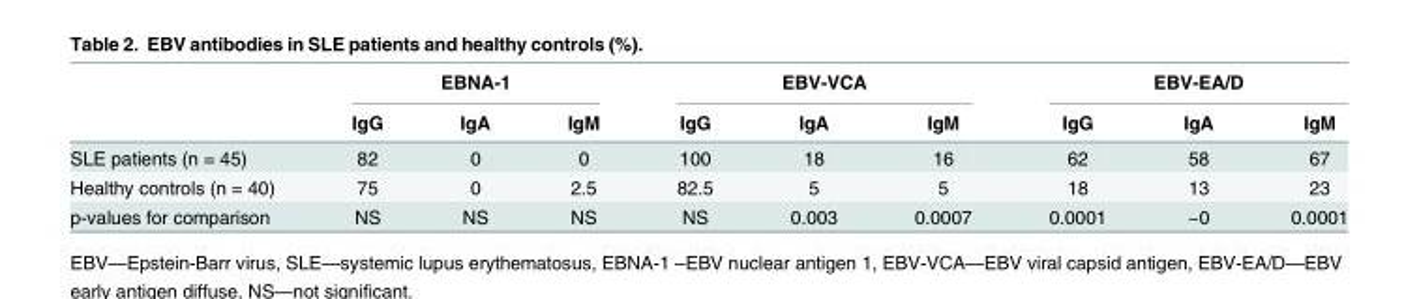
<table><thead><tr><td rowspan="2"></td><td colspan="3">EBNA-1</td><td colspan="3">EBV-VCA</td><td colspan="3">EBV-EA/D</td></tr><tr><td>IgG</td><td>IgA</td><td>IgM</td><td>IgG</td><td>IgA</td><td>IgM</td><td>IgG</td><td>IgA</td><td>IgM</td></tr></thead><tbody><tr><td>SLE patients (n = 45)</td><td>82</td><td>0</td><td>0</td><td>100</td><td>18</td><td>16</td><td>62</td><td>58</td><td>67</td></tr><tr><td>Healthy controls (n = 40)</td><td>75</td><td>0</td><td>2.5</td><td>82.5</td><td>5</td><td>5</td><td>18</td><td>13</td><td>23</td></tr><tr><td>p-values for comparison</td><td>NS</td><td>NS</td><td>NS</td><td>NS</td><td>0.003</td><td>0.0007</td><td>0.0001</td><td>~0</td><td>0.0001</td></tr></tbody></table>